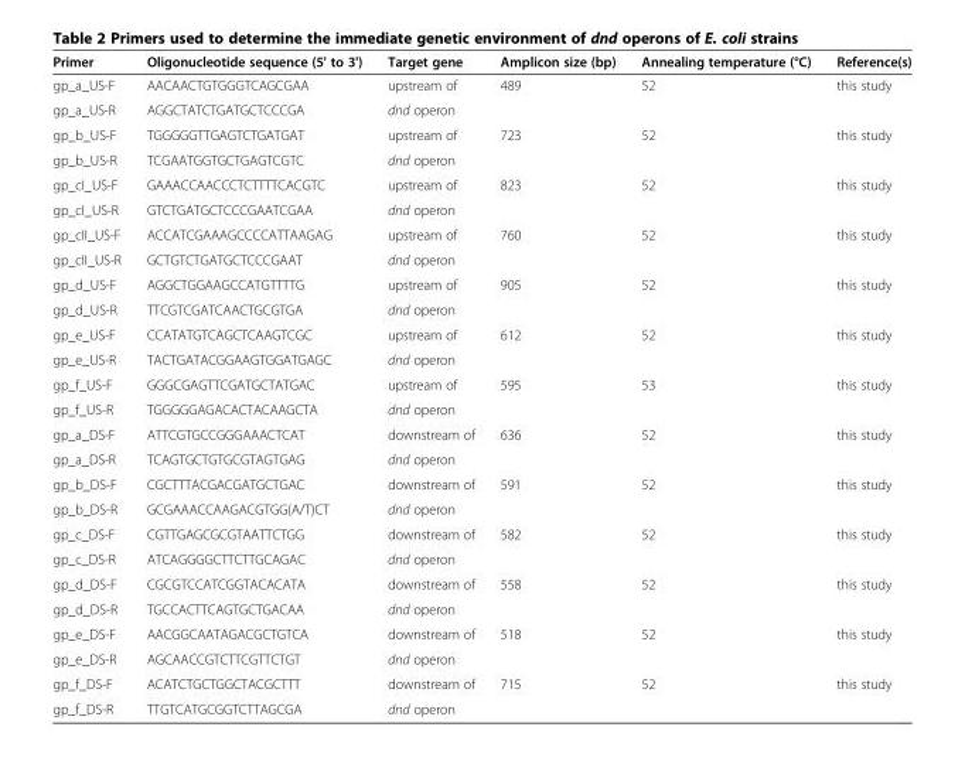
<table><thead><tr><td>Primer</td><td>Oligonucleotide sequence (5&#x27; to 3&#x27;)</td><td>Target gene</td><td>Amplicon size (bp)</td><td>Annealing temperature (°C)</td><td>Reference(s)</td></tr></thead><tbody><tr><td>gp_a_US-F</td><td>AACAACTGTGGGTCAGCGAA</td><td>upstream of</td><td rowspan="2">489</td><td rowspan="2">52</td><td rowspan="2">this study</td></tr><tr><td>gp_a_US-R</td><td>AGGCTATCTGATGCTCCCGA</td><td>dnd operon</td></tr><tr><td>gp_b_US-F</td><td>TGGGGGTTGAGTCTGATGAT</td><td>upstream of</td><td rowspan="2">723</td><td rowspan="2">52</td><td rowspan="2">this study</td></tr><tr><td>gp_b_US-R</td><td>TCGAATGGTGCTGAGTCGTC</td><td>dnd operon</td></tr><tr><td>gp_cI_US-F</td><td>GAAACCAACCCTCTTTTCACGTC</td><td>upstream of</td><td rowspan="2">823</td><td rowspan="2">52</td><td rowspan="2">this study</td></tr><tr><td>gp_cI_US-R</td><td>GTCTGATGCTCCCGAATCGAA</td><td>dnd operon</td></tr><tr><td>gp_cII_US-F</td><td>ACCATCGAAAGCCCCATTAAGAG</td><td>upstream of</td><td rowspan="2">760</td><td rowspan="2">52</td><td rowspan="2">this study</td></tr><tr><td>gp_cII_US-R</td><td>GCTGTCTGATGCTCCCGAAT</td><td>dnd operon</td></tr><tr><td>gp_d_US-F</td><td>AGGCTGGAAGCCATGTTTTG</td><td>upstream of</td><td rowspan="2">905</td><td rowspan="2">52</td><td rowspan="2">this study</td></tr><tr><td>gp_d_US-R</td><td>TTCGTCGATCAACTGCGTGA</td><td>dnd operon</td></tr><tr><td>gp_e_US-F</td><td>CCATATGTCAGCTCAAGTCGC</td><td>upstream of</td><td rowspan="2">612</td><td rowspan="2">52</td><td rowspan="2">this study</td></tr><tr><td>gp_e_US-R</td><td>TACTGATACGGAAGTGGATGAGC</td><td>dnd operon</td></tr><tr><td>gp_f_US-F</td><td>GGGCGAGTTCGATGCTATGAC</td><td>upstream of</td><td rowspan="2">595</td><td rowspan="2">53</td><td rowspan="2">this study</td></tr><tr><td>gp_f_US-R</td><td>TGGGGGAGACACTACAAGCTA</td><td>dnd operon</td></tr><tr><td>gp_a_DS-F</td><td>ATTCGTGCCGGGAAACTCAT</td><td>downstream of</td><td rowspan="2">636</td><td rowspan="2">52</td><td rowspan="2">this study</td></tr><tr><td>gp_a_DS-R</td><td>TCAGTGCTGTGCGTAGTGAG</td><td>dnd operon</td></tr><tr><td>gp_b_DS-F</td><td>CGCTTTACGACGATGCTGAC</td><td>downstream of</td><td rowspan="2">591</td><td rowspan="2">52</td><td rowspan="2">this study</td></tr><tr><td>gp_b_DS-R</td><td>GCGAAACCAAGACGTGG(A/T)CT</td><td>dnd operon</td></tr><tr><td>gp_c_DS-F</td><td>CGTTGAGCGCGTAATTCTGG</td><td>downstream of</td><td rowspan="2">582</td><td rowspan="2">52</td><td rowspan="2">this study</td></tr><tr><td>gp_c_DS-R</td><td>ATCAGGGGCTTCTTGCAGAC</td><td>dnd operon</td></tr><tr><td>gp_d_DS-F</td><td>CGCGTCCATCGGTACACATA</td><td>downstream of</td><td rowspan="2">558</td><td rowspan="2">52</td><td rowspan="2">this study</td></tr><tr><td>gp_d_DS-R</td><td>TGCCACTTCAGTGCTGACAA</td><td>dnd operon</td></tr><tr><td>gp_e_DS-F</td><td>AACGGCAATAGACGCTGTCA</td><td>downstream of</td><td rowspan="2">518</td><td rowspan="2">52</td><td rowspan="2">this study</td></tr><tr><td>gp_e_DS-R</td><td>AGCAACCGTCTTCGTTCTGT</td><td>dnd operon</td></tr><tr><td>gp_f_DS-F</td><td>ACATCTGCTGGCTACGCTTT</td><td>downstream of</td><td rowspan="2">715</td><td rowspan="2">52</td><td rowspan="2">this study</td></tr><tr><td>gp_f_DS-R</td><td>TTGTCATGCGGTCTTAGCGA</td><td>dnd operon</td></tr></tbody></table>